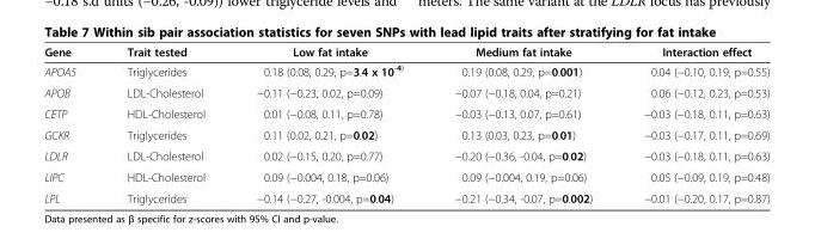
<table><thead><tr><td>Gene</td><td>Trait tested</td><td>Low fat intake</td><td>Medium fat intake</td><td>Interaction effect</td></tr></thead><tbody><tr><td>APOA5</td><td>Triglycerides</td><td>0.18 (0.08, 0.29, p=3.4 x 10<sup>-4)</sup></td><td>0.19 (0.08, 0.29, p=0.001)</td><td>0.04 (−0.10, 0.19, p=0.55)</td></tr><tr><td>APOB</td><td>LDL-Cholesterol</td><td>−0.11 (−0.23, 0.02, p=0.09)</td><td>−0.07 (−0.18, 0.04, p=0.21)</td><td>0.06 (−0.12, 0.23, p=0.53)</td></tr><tr><td>CETP</td><td>HDL-Cholesterol</td><td>0.01 (−0.08, 0.11, p=0.78)</td><td>−0.03 (−0.13, 0.07, p=0.61)</td><td>−0.03 (−0.18, 0.11, p=0.63)</td></tr><tr><td>GCKR</td><td>Triglycerides</td><td>0.11 (0.02, 0.21, p=0.02)</td><td>0.13 (0.03, 0.23, p=0.01)</td><td>−0.03 (−0.17, 0.11, p=0.69)</td></tr><tr><td>LDLR</td><td>LDL-Cholesterol</td><td>0.02 (−0.15, 0.20, p=0.77)</td><td>−0.20 (−0.36, -0.04, p=0.02)</td><td>−0.03 (−0.18, 0.11, p=0.63)</td></tr><tr><td>LIPC</td><td>HDL-Cholesterol</td><td>0.09 (−0.004, 0.18, p=0.06)</td><td>0.09 (−0.004, 0.19, p=0.06)</td><td>0.05 (−0.09, 0.19, p=0.48)</td></tr><tr><td>LPL</td><td>Triglycerides</td><td>−0.14 (−0.27, -0.004, p=0.04)</td><td>−0.21 (−0.34, -0.07, p=0.002)</td><td>−0.01 (−0.20, 0.17, p=0.87)</td></tr></tbody></table>